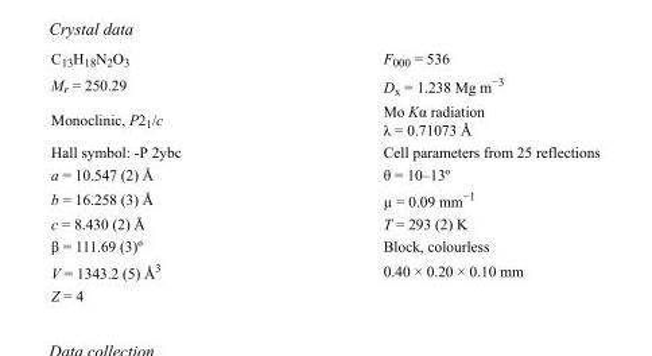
<table><tbody><tr><td>C<sub>13</sub>H<sub>18</sub>N<sub>2</sub>O<sub>3</sub></td><td>F<sub>000</sub> = 536</td></tr><tr><td>M<sub>r</sub> = 250.29</td><td>D<sub>x</sub> = 1.238 Mg m<sup>−3</sup></td></tr><tr><td>Monoclinic, P2<sub>1</sub>/c</td><td>Mo Kα radiation λ = 0.71073 Å</td></tr><tr><td>Hall symbol: -P 2ybc</td><td>Cell parameters from 25 reflections</td></tr><tr><td>a = 10.547 (2) Å</td><td>θ = 10–13º</td></tr><tr><td>b = 16.258 (3) Å</td><td>µ = 0.09 mm<sup>−1</sup></td></tr><tr><td>c = 8.430 (2) Å</td><td>T = 293 (2) K</td></tr><tr><td>β = 111.69 (3)º</td><td>Block, colourless</td></tr><tr><td>V = 1343.2 (5) Å<sup>3</sup></td><td>0.40 × 0.20 × 0.10 mm</td></tr><tr><td>Z = 4</td><td></td></tr></tbody></table>